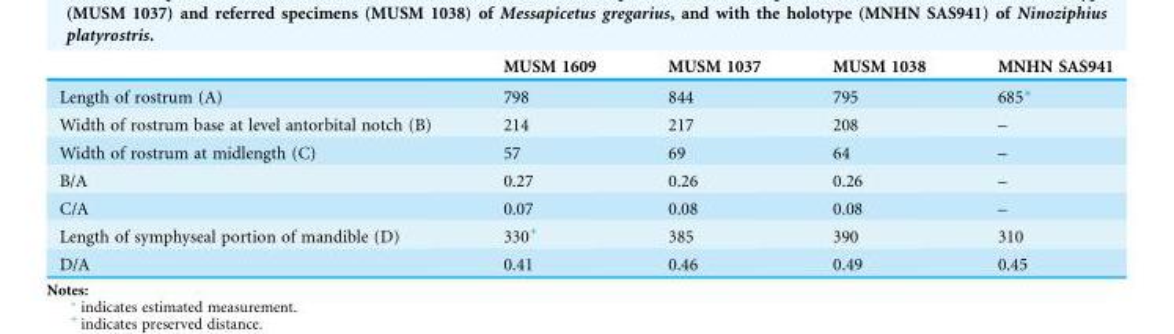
<table><thead><tr><td></td><td>MUSM 1609</td><td>MUSM 1037</td><td>MUSM 1038</td><td>MNHN SAS941</td></tr></thead><tbody><tr><td>Length of rostrum (A)</td><td>798</td><td>844</td><td>795</td><td>685*</td></tr><tr><td>Width of rostrum base at level antorbital notch (B)</td><td>214</td><td>217</td><td>208</td><td>–</td></tr><tr><td>Width of rostrum at midlength (C)</td><td>57</td><td>69</td><td>64</td><td>–</td></tr><tr><td>B/A</td><td>0.27</td><td>0.26</td><td>0.26</td><td>–</td></tr><tr><td>C/A</td><td>0.07</td><td>0.08</td><td>0.08</td><td>–</td></tr><tr><td>Length of symphyseal portion of mandible (D)</td><td>330<sup>+</sup></td><td>385</td><td>390</td><td>310</td></tr><tr><td>D/A</td><td>0.41</td><td>0.46</td><td>0.49</td><td>0.45</td></tr></tbody></table>